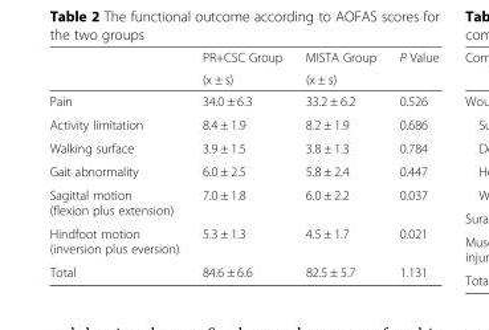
<table><thead><tr><td rowspan="2"></td><td rowspan="2">PR+CSC Group (x ± s)</td><td rowspan="2">MISTA Group (x ± s)</td><td rowspan="2">P Value</td></tr><tr></tr></thead><tbody><tr><td>Pain</td><td>34.0 ± 6.3</td><td>33.2 ± 6.2</td><td>0.526</td></tr><tr><td>Activity limitation</td><td>8.4 ± 1.9</td><td>8.2 ± 1.9</td><td>0.686</td></tr><tr><td>Walking surface</td><td>3.9 ± 1.5</td><td>3.8 ± 1.3</td><td>0.784</td></tr><tr><td>Gait abnormality</td><td>6.0 ± 2.5</td><td>5.8 ± 2.4</td><td>0.447</td></tr><tr><td>Sagittal motion (flexion plus extension)</td><td>7.0 ± 1.8</td><td>6.0 ± 2.2</td><td>0.037</td></tr><tr><td>Hindfoot motion (inversion plus eversion)</td><td>5.3 ± 1.3</td><td>4.5 ± 1.7</td><td>0.021</td></tr><tr><td>Total</td><td>84.6 ± 6.6</td><td>82.5 ± 5.7</td><td>1.131</td></tr></tbody></table>